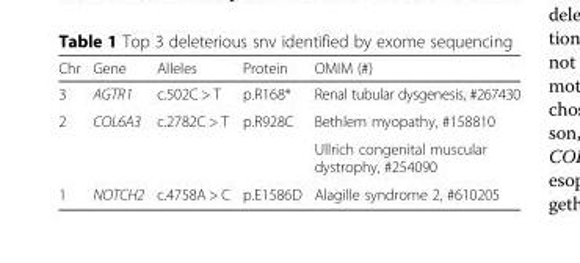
<table><thead><tr><td>Chr</td><td>Gene</td><td>Alleles</td><td>Protein</td><td>OMIM (#)</td></tr></thead><tbody><tr><td>3</td><td>AGTR1</td><td>c.502C &gt; T</td><td>p.R168*</td><td>Renal tubular dysgenesis, #267430</td></tr><tr><td rowspan="2">2</td><td rowspan="2">COL6A3</td><td rowspan="2">c.2782C &gt; T</td><td rowspan="2">p.R928C</td><td>Bethlem myopathy, #158810</td></tr><tr><td>Ullrich congenital muscular dystrophy, #254090</td></tr><tr><td>1</td><td>NOTCH2</td><td>c.4758A &gt; C</td><td>p.E1586D</td><td>Alagille syndrome 2, #610205</td></tr></tbody></table>